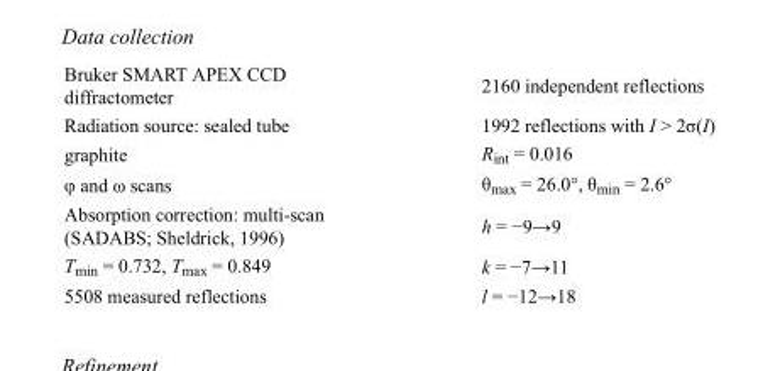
<table><tbody><tr><td>Bruker SMART APEX CCD diffractometer</td><td>2160 independent reflections</td></tr><tr><td>Radiation source: sealed tube</td><td>1992 reflections with I &gt; 2σ(I)</td></tr><tr><td>graphite</td><td>R<sub>int</sub> = 0.016</td></tr><tr><td>φ and ω scans</td><td>θ<sub>max</sub> = 26.0°, θ<sub>min</sub> = 2.6°</td></tr><tr><td>Absorption correction: multi-scan (SADABS; Sheldrick, 1996)</td><td>h = −9→9</td></tr><tr><td>T<sub>min</sub> = 0.732, T<sub>max</sub> = 0.849</td><td>k = −7→11</td></tr><tr><td>5508 measured reflections</td><td>l = −12→18</td></tr></tbody></table>